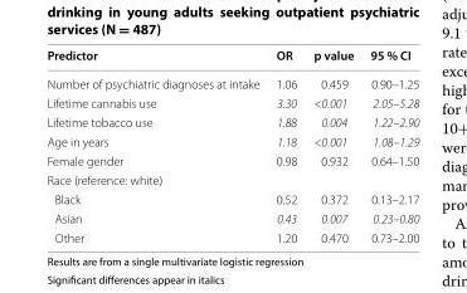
<table><thead><tr><td>Predictor</td><td>OR</td><td>p value</td><td>95 % CI</td></tr></thead><tbody><tr><td>Number of psychiatric diagnoses at intake</td><td>1.06</td><td>0.459</td><td>0.90–1.25</td></tr><tr><td>Lifetime cannabis use</td><td>3.30</td><td>&lt;0.001</td><td>2.05–5.28</td></tr><tr><td>Lifetime tobacco use</td><td>1.88</td><td>0.004</td><td>1.22–2.90</td></tr><tr><td>Age in years</td><td>1.18</td><td>&lt;0.001</td><td>1.08–1.29</td></tr><tr><td>Female gender</td><td>0.98</td><td>0.932</td><td>0.64–1.50</td></tr><tr><td colspan="4">Race (reference: white)</td></tr><tr><td>Black</td><td>0.52</td><td>0.372</td><td>0.13–2.17</td></tr><tr><td>Asian</td><td>0.43</td><td>0.007</td><td>0.23–0.80</td></tr><tr><td>Other</td><td>1.20</td><td>0.470</td><td>0.73–2.00</td></tr></tbody></table>